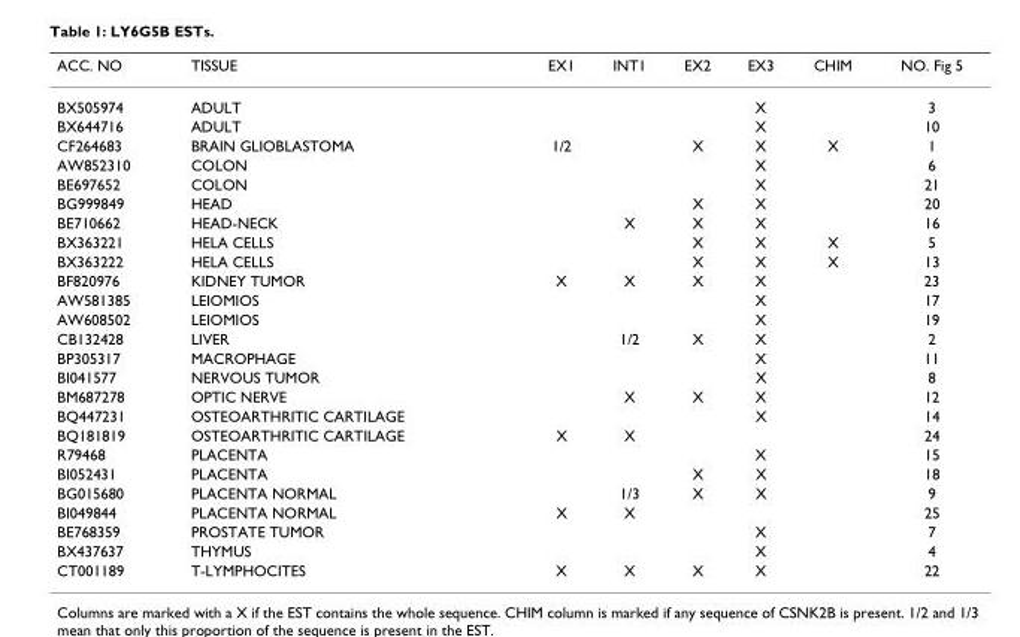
<table><thead><tr><td>ACC. NO</td><td>TISSUE</td><td>EX1</td><td>INT1</td><td>EX2</td><td>EX3</td><td>CHIM</td><td>NO. Fig 5</td></tr></thead><tbody><tr><td>BX505974</td><td>ADULT</td><td></td><td></td><td></td><td>X</td><td></td><td>3</td></tr><tr><td>BX644716</td><td>ADULT</td><td></td><td></td><td></td><td>X</td><td></td><td>10</td></tr><tr><td>CF264683</td><td>BRAIN GLIOBLASTOMA</td><td>1/2</td><td></td><td>X</td><td>X</td><td>X</td><td>1</td></tr><tr><td>AW852310</td><td>COLON</td><td></td><td></td><td></td><td>X</td><td></td><td>6</td></tr><tr><td>BE697652</td><td>COLON</td><td></td><td></td><td></td><td>X</td><td></td><td>21</td></tr><tr><td>BG999849</td><td>HEAD</td><td></td><td></td><td>X</td><td>X</td><td></td><td>20</td></tr><tr><td>BE710662</td><td>HEAD-NECK</td><td></td><td>X</td><td>X</td><td>X</td><td></td><td>16</td></tr><tr><td>BX363221</td><td>HELA CELLS</td><td></td><td></td><td>X</td><td>X</td><td>X</td><td>5</td></tr><tr><td>BX363222</td><td>HELA CELLS</td><td></td><td></td><td>X</td><td>X</td><td>X</td><td>13</td></tr><tr><td>BF820976</td><td>KIDNEY TUMOR</td><td>X</td><td>X</td><td>X</td><td>X</td><td></td><td>23</td></tr><tr><td>AW581385</td><td>LEIOMIOS</td><td></td><td></td><td></td><td>X</td><td></td><td>17</td></tr><tr><td>AW608502</td><td>LEIOMIOS</td><td></td><td></td><td></td><td>X</td><td></td><td>19</td></tr><tr><td>CB132428</td><td>LIVER</td><td></td><td>1/2</td><td>X</td><td>X</td><td></td><td>2</td></tr><tr><td>BP305317</td><td>MACROPHAGE</td><td></td><td></td><td></td><td>X</td><td></td><td>11</td></tr><tr><td>BI041577</td><td>NERVOUS TUMOR</td><td></td><td></td><td></td><td>X</td><td></td><td>8</td></tr><tr><td>BM687278</td><td>OPTIC NERVE</td><td></td><td>X</td><td>X</td><td>X</td><td></td><td>12</td></tr><tr><td>BQ447231</td><td>OSTEOARTHRITIC CARTILAGE</td><td></td><td></td><td></td><td>X</td><td></td><td>14</td></tr><tr><td>BQ181819</td><td>OSTEOARTHRITIC CARTILAGE</td><td>X</td><td>X</td><td></td><td></td><td></td><td>24</td></tr><tr><td>R79468</td><td>PLACENTA</td><td></td><td></td><td></td><td>X</td><td></td><td>15</td></tr><tr><td>BI052431</td><td>PLACENTA</td><td></td><td></td><td>X</td><td>X</td><td></td><td>18</td></tr><tr><td>BG015680</td><td>PLACENTA NORMAL</td><td></td><td>1/3</td><td>X</td><td>X</td><td></td><td>9</td></tr><tr><td>BI049844</td><td>PLACENTA NORMAL</td><td>X</td><td>X</td><td></td><td></td><td></td><td>25</td></tr><tr><td>BE768359</td><td>PROSTATE TUMOR</td><td></td><td></td><td></td><td>X</td><td></td><td>7</td></tr><tr><td>BX437637</td><td>THYMUS</td><td></td><td></td><td></td><td>X</td><td></td><td>4</td></tr><tr><td>CT001189</td><td>T-LYMPHOCITES</td><td>X</td><td>X</td><td>X</td><td>X</td><td></td><td>22</td></tr></tbody></table>